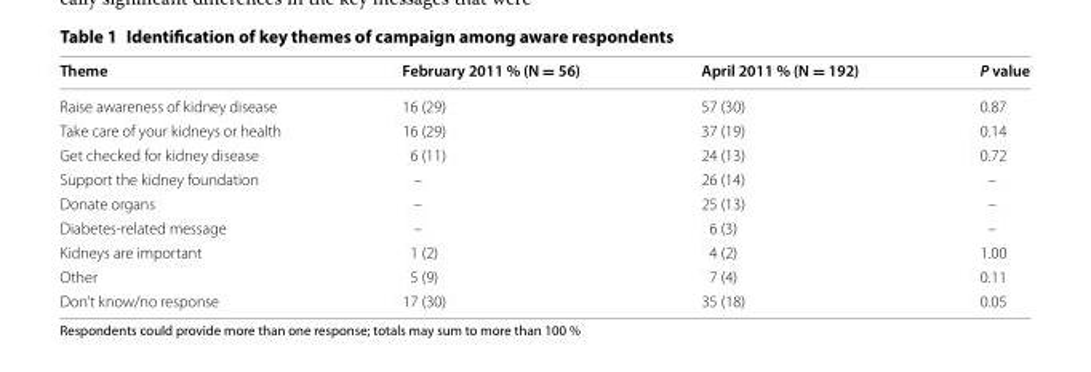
<table><thead><tr><td>Theme</td><td>February 2011 % (N = 56)</td><td>April 2011 % (N = 192)</td><td>P value</td></tr></thead><tbody><tr><td>Raise awareness of kidney disease</td><td>16 (29)</td><td>57 (30)</td><td>0.87</td></tr><tr><td>Take care of your kidneys or health</td><td>16 (29)</td><td>37 (19)</td><td>0.14</td></tr><tr><td>Get checked for kidney disease</td><td>6 (11)</td><td>24 (13)</td><td>0.72</td></tr><tr><td>Support the kidney foundation</td><td>–</td><td>26 (14)</td><td>–</td></tr><tr><td>Donate organs</td><td>–</td><td>25 (13)</td><td>–</td></tr><tr><td>Diabetes-related message</td><td>–</td><td>6 (3)</td><td>–</td></tr><tr><td>Kidneys are important</td><td>1 (2)</td><td>4 (2)</td><td>1.00</td></tr><tr><td>Other</td><td>5 (9)</td><td>7 (4)</td><td>0.11</td></tr><tr><td>Don’t know/no response</td><td>17 (30)</td><td>35 (18)</td><td>0.05</td></tr></tbody></table>